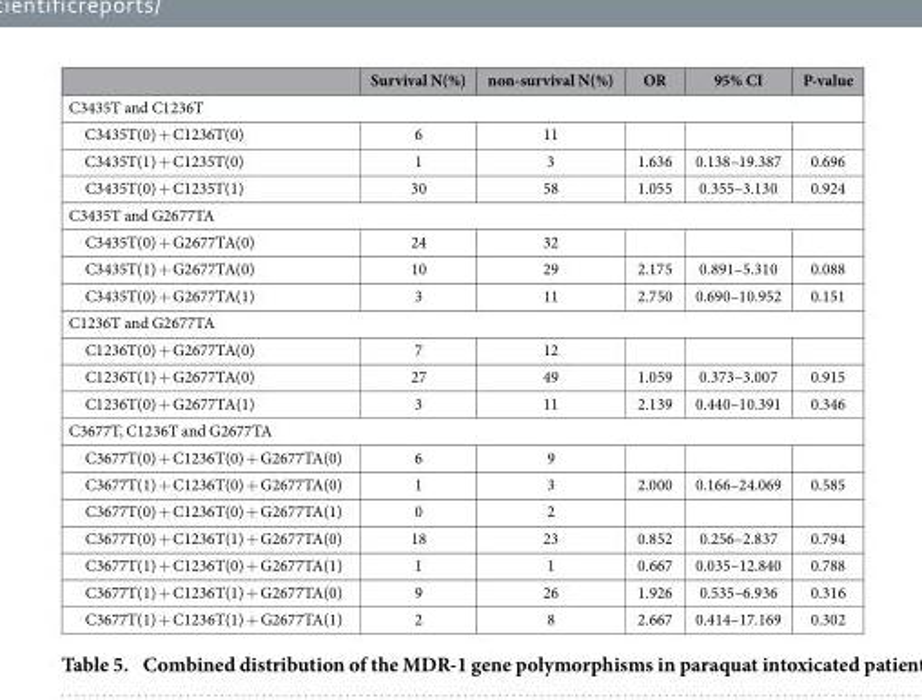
<table><thead><tr><td></td><td>Survival N(%)</td><td>non-survival N(%)</td><td>OR</td><td>95% CI</td><td>P-value</td></tr></thead><tbody><tr><td colspan="6">C3435T and C1236T</td></tr><tr><td>C3435T(0) + C1236T(0)</td><td>6</td><td>11</td><td></td><td></td><td></td></tr><tr><td>C3435T(1) + C1235T(0)</td><td>1</td><td>3</td><td>1.636</td><td>0.138–19.387</td><td>0.696</td></tr><tr><td>C3435T(0) + C1235T(1)</td><td>30</td><td>58</td><td>1.055</td><td>0.355–3.130</td><td>0.924</td></tr><tr><td colspan="6">C3435T and G2677TA</td></tr><tr><td>C3435T(0) + G2677TA(0)</td><td>24</td><td>32</td><td></td><td></td><td></td></tr><tr><td>C3435T(1) + G2677TA(0)</td><td>10</td><td>29</td><td>2.175</td><td>0.891–5.310</td><td>0.088</td></tr><tr><td>C3435T(0) + G2677TA(1)</td><td>3</td><td>11</td><td>2.750</td><td>0.690–10.952</td><td>0.151</td></tr><tr><td colspan="6">C1236T and G2677TA</td></tr><tr><td>C1236T(0) + G2677TA(0)</td><td>7</td><td>12</td><td></td><td></td><td></td></tr><tr><td>C1236T(1) + G2677TA(0)</td><td>27</td><td>49</td><td>1.059</td><td>0.373–3.007</td><td>0.915</td></tr><tr><td>C1236T(0) + G2677TA(1)</td><td>3</td><td>11</td><td>2.139</td><td>0.440–10.391</td><td>0.346</td></tr><tr><td colspan="6">C3677T, C1236T and G2677TA</td></tr><tr><td>C3677T(0) + C1236T(0) + G2677TA(0)</td><td>6</td><td>9</td><td></td><td></td><td></td></tr><tr><td>C3677T(1) + C1236T(0) + G2677TA(0)</td><td>1</td><td>3</td><td>2.000</td><td>0.166–24.069</td><td>0.585</td></tr><tr><td>C3677T(0) + C1236T(0) + G2677TA(1)</td><td>0</td><td>2</td><td></td><td></td><td></td></tr><tr><td>C3677T(0) + C1236T(1) + G2677TA(0)</td><td>18</td><td>23</td><td>0.852</td><td>0.256–2.837</td><td>0.794</td></tr><tr><td>C3677T(1) + C1236T(0) + G2677TA(1)</td><td>1</td><td>1</td><td>0.667</td><td>0.035–12.840</td><td>0.788</td></tr><tr><td>C3677T(1) + C1236T(1) + G2677TA(0)</td><td>9</td><td>26</td><td>1.926</td><td>0.535–6.936</td><td>0.316</td></tr><tr><td>C3677T(1) + C1236T(1) + G2677TA(1)</td><td>2</td><td>8</td><td>2.667</td><td>0.414–17.169</td><td>0.302</td></tr></tbody></table>